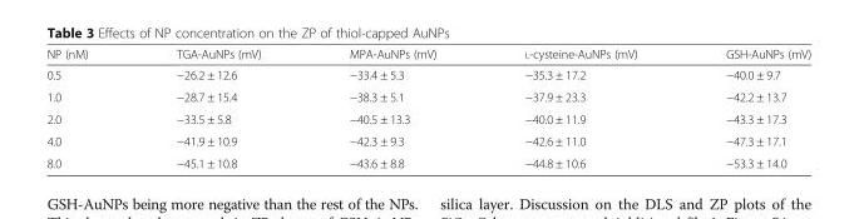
<table><thead><tr><td>NP (nM)</td><td>TGA-AuNPs (mV)</td><td>MPA-AuNPs (mV)</td><td>L-cysteine-AuNPs (mV)</td><td>GSH-AuNPs (mV)</td></tr></thead><tbody><tr><td>0.5</td><td>−26.2 ± 12.6</td><td>−33.4 ± 5.3</td><td>−35.3 ± 17.2</td><td>−40.0 ± 9.7</td></tr><tr><td>1.0</td><td>−28.7 ± 15.4</td><td>−38.3 ± 5.1</td><td>−37.9 ± 23.3</td><td>−42.2 ± 13.7</td></tr><tr><td>2.0</td><td>−33.5 ± 5.8</td><td>−40.5 ± 13.3</td><td>−40.0 ± 11.9</td><td>−43.3 ± 17.3</td></tr><tr><td>4.0</td><td>−41.9 ± 10.9</td><td>−42.3 ± 9.3</td><td>−42.6 ± 11.0</td><td>−47.3 ± 17.1</td></tr><tr><td>8.0</td><td>−45.1 ± 10.8</td><td>−43.6 ± 8.8</td><td>−44.8 ± 10.6</td><td>−53.3 ± 14.0</td></tr></tbody></table>